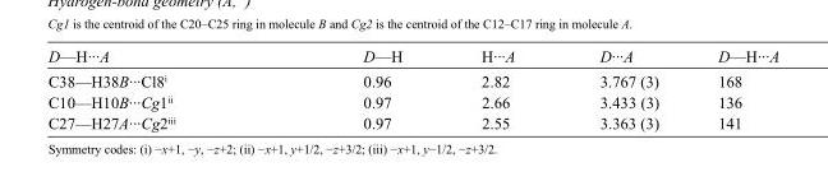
<table><tbody><tr><td>D—H···A</td><td>D—H</td><td>H···A</td><td>D···A</td><td>D—H···A</td></tr><tr><td>C38—H38B···Cl8<sup>i</sup></td><td>0.96</td><td>2.82</td><td>3.767 (3)</td><td>168</td></tr><tr><td>C10—H10B···Cg1<sup>ii</sup></td><td>0.97</td><td>2.66</td><td>3.433 (3)</td><td>136</td></tr><tr><td>C27—H27A···Cg2<sup>iii</sup></td><td>0.97</td><td>2.55</td><td>3.363 (3)</td><td>141</td></tr></tbody></table>